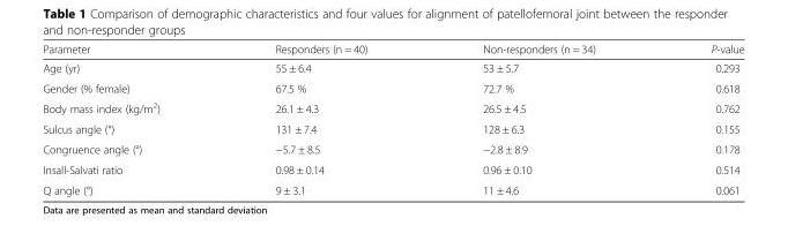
<table><thead><tr><td>Parameter</td><td>Responders (n = 40)</td><td>Non-responders (n = 34)</td><td>P-value</td></tr></thead><tbody><tr><td>Age (yr)</td><td>55 ± 6.4</td><td>53 ± 5.7</td><td>0.293</td></tr><tr><td>Gender (% female)</td><td>67.5 %</td><td>72.7 %</td><td>0.618</td></tr><tr><td>Body mass index (kg/m<sup>2</sup>)</td><td>26.1 ± 4.3</td><td>26.5 ± 4.5</td><td>0.762</td></tr><tr><td>Sulcus angle (°)</td><td>131 ± 7.4</td><td>128 ± 6.3</td><td>0.155</td></tr><tr><td>Congruence angle (°)</td><td>−5.7 ± 8.5</td><td>−2.8 ± 8.9</td><td>0.178</td></tr><tr><td>Insall-Salvati ratio</td><td>0.98 ± 0.14</td><td>0.96 ± 0.10</td><td>0.514</td></tr><tr><td>Q angle (°)</td><td>9 ± 3.1</td><td>11 ± 4.6</td><td>0.061</td></tr></tbody></table>